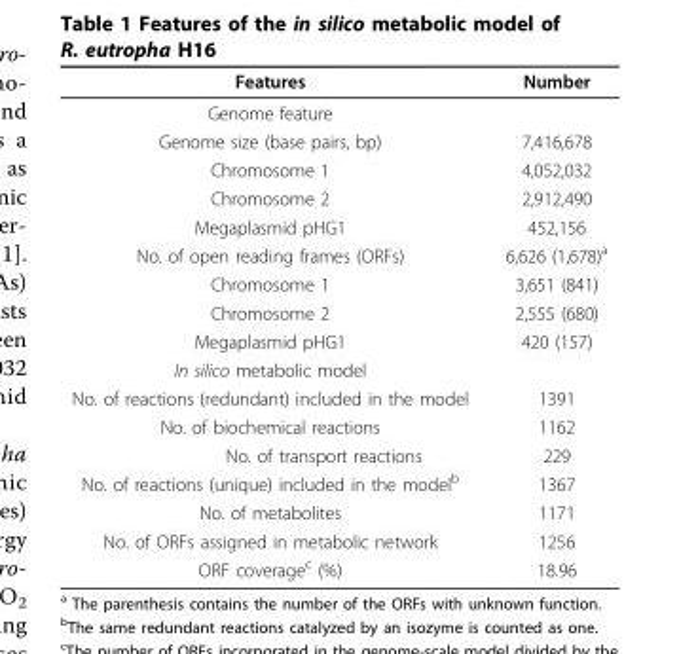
<table><thead><tr><td>Features</td><td>Number</td></tr></thead><tbody><tr><td colspan="2">Genome feature</td></tr><tr><td>Genome size (base pairs, bp)</td><td>7,416,678</td></tr><tr><td>Chromosome 1</td><td>4,052,032</td></tr><tr><td>Chromosome 2</td><td>2,912,490</td></tr><tr><td>Megaplasmid pHG1</td><td>452,156</td></tr><tr><td>No. of open reading frames (ORFs)</td><td>6,626 (1,678)<sup>a</sup></td></tr><tr><td>Chromosome 1</td><td>3,651 (841)</td></tr><tr><td>Chromosome 2</td><td>2,555 (680)</td></tr><tr><td>Megaplasmid pHG1</td><td>420 (157)</td></tr><tr><td colspan="2">In silico metabolic model</td></tr><tr><td>No. of reactions (redundant) included in the model</td><td>1391</td></tr><tr><td>No. of biochemical reactions</td><td>1162</td></tr><tr><td>No. of transport reactions</td><td>229</td></tr><tr><td>No. of reactions (unique) included in the model<sup>b</sup></td><td>1367</td></tr><tr><td>No. of metabolites</td><td>1171</td></tr><tr><td>No. of ORFs assigned in metabolic network</td><td>1256</td></tr><tr><td>ORF coverage<sup>c</sup> (%)</td><td>18.96</td></tr></tbody></table>